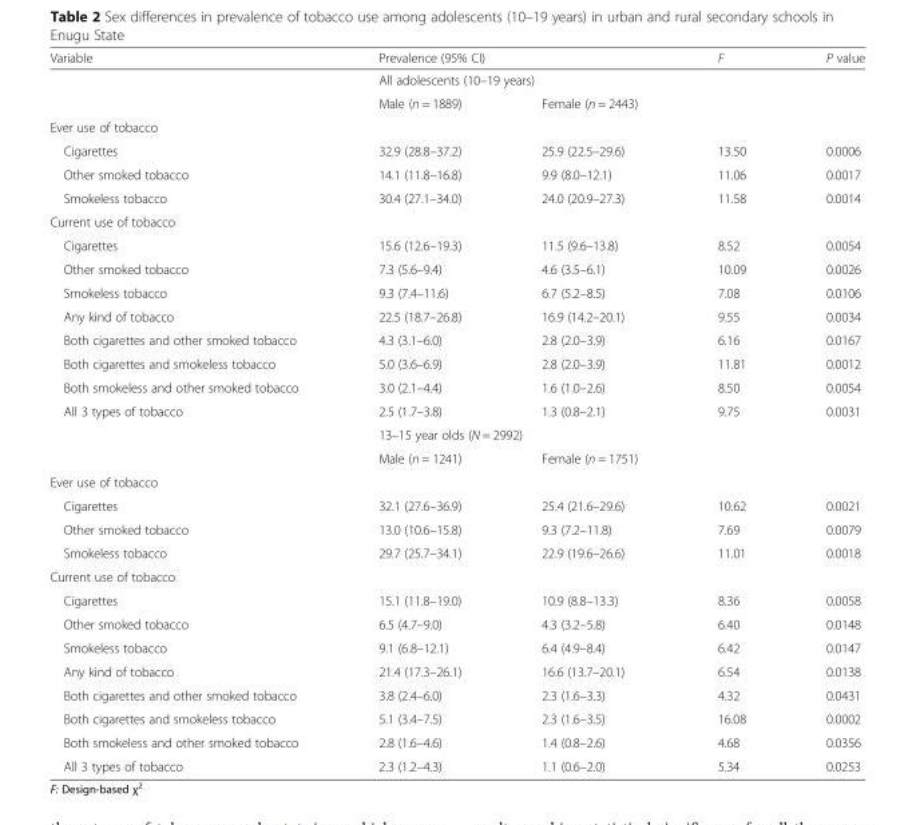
<table><thead><tr><td rowspan="3">Variable</td><td colspan="2">Prevalence (95% CI)</td><td>F</td><td>P value</td></tr><tr><td colspan="4">All adolescents (10–19 years)</td></tr><tr><td>Male (n = 1889)</td><td>Female (n = 2443)</td><td></td><td></td></tr></thead><tbody><tr><td colspan="5">Ever use of tobacco</td></tr><tr><td>Cigarettes</td><td>32.9 (28.8–37.2)</td><td>25.9 (22.5–29.6)</td><td>13.50</td><td>0.0006</td></tr><tr><td>Other smoked tobacco</td><td>14.1 (11.8–16.8)</td><td>9.9 (8.0–12.1)</td><td>11.06</td><td>0.0017</td></tr><tr><td>Smokeless tobacco</td><td>30.4 (27.1–34.0)</td><td>24.0 (20.9–27.3)</td><td>11.58</td><td>0.0014</td></tr><tr><td colspan="5">Current use of tobacco</td></tr><tr><td>Cigarettes</td><td>15.6 (12.6–19.3)</td><td>11.5 (9.6–13.8)</td><td>8.52</td><td>0.0054</td></tr><tr><td>Other smoked tobacco</td><td>7.3 (5.6–9.4)</td><td>4.6 (3.5–6.1)</td><td>10.09</td><td>0.0026</td></tr><tr><td>Smokeless tobacco</td><td>9.3 (7.4–11.6)</td><td>6.7 (5.2–8.5)</td><td>7.08</td><td>0.0106</td></tr><tr><td>Any kind of tobacco</td><td>22.5 (18.7–26.8)</td><td>16.9 (14.2–20.1)</td><td>9.55</td><td>0.0034</td></tr><tr><td>Both cigarettes and other smoked tobacco</td><td>4.3 (3.1–6.0)</td><td>2.8 (2.0–3.9)</td><td>6.16</td><td>0.0167</td></tr><tr><td>Both cigarettes and smokeless tobacco</td><td>5.0 (3.6–6.9)</td><td>2.8 (2.0–3.9)</td><td>11.81</td><td>0.0012</td></tr><tr><td>Both smokeless and other smoked tobacco</td><td>3.0 (2.1–4.4)</td><td>1.6 (1.0–2.6)</td><td>8.50</td><td>0.0054</td></tr><tr><td rowspan="3">All 3 types of tobacco</td><td>2.5 (1.7–3.8)</td><td>1.3 (0.8–2.1)</td><td>9.75</td><td>0.0031</td></tr><tr><td colspan="4">13–15 year olds (N = 2992)</td></tr><tr><td>Male (n = 1241)</td><td>Female (n = 1751)</td><td></td><td></td></tr><tr><td colspan="5">Ever use of tobacco</td></tr><tr><td>Cigarettes</td><td>32.1 (27.6–36.9)</td><td>25.4 (21.6–29.6)</td><td>10.62</td><td>0.0021</td></tr><tr><td>Other smoked tobacco</td><td>13.0 (10.6–15.8)</td><td>9.3 (7.2–11.8)</td><td>7.69</td><td>0.0079</td></tr><tr><td>Smokeless tobacco</td><td>29.7 (25.7–34.1)</td><td>22.9 (19.6–26.6)</td><td>11.01</td><td>0.0018</td></tr><tr><td colspan="5">Current use of tobacco</td></tr><tr><td>Cigarettes</td><td>15.1 (11.8–19.0)</td><td>10.9 (8.8–13.3)</td><td>8.36</td><td>0.0058</td></tr><tr><td>Other smoked tobacco</td><td>6.5 (4.7–9.0)</td><td>4.3 (3.2–5.8)</td><td>6.40</td><td>0.0148</td></tr><tr><td>Smokeless tobacco</td><td>9.1 (6.8–12.1)</td><td>6.4 (4.9–8.4)</td><td>6.42</td><td>0.0147</td></tr><tr><td>Any kind of tobacco</td><td>21.4 (17.3–26.1)</td><td>16.6 (13.7–20.1)</td><td>6.54</td><td>0.0138</td></tr><tr><td>Both cigarettes and other smoked tobacco</td><td>3.8 (2.4–6.0)</td><td>2.3 (1.6–3.3)</td><td>4.32</td><td>0.0431</td></tr><tr><td>Both cigarettes and smokeless tobacco</td><td>5.1 (3.4–7.5)</td><td>2.3 (1.6–3.5)</td><td>16.08</td><td>0.0002</td></tr><tr><td>Both smokeless and other smoked tobacco</td><td>2.8 (1.6–4.6)</td><td>1.4 (0.8–2.6)</td><td>4.68</td><td>0.0356</td></tr><tr><td>All 3 types of tobacco</td><td>2.3 (1.2–4.3)</td><td>1.1 (0.6–2.0)</td><td>5.34</td><td>0.0253</td></tr></tbody></table>